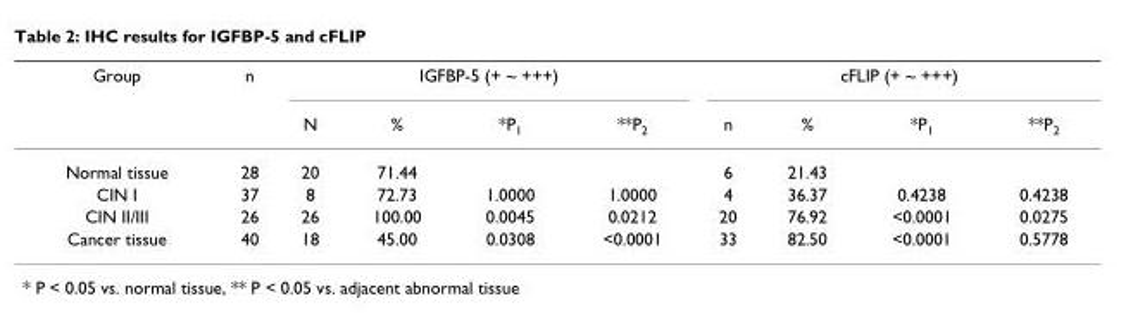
<table><thead><tr><td rowspan="2">Group</td><td rowspan="2">n</td><td colspan="4">IGFBP-5 (+ ~ +++)</td><td colspan="4">cFLIP (+ ~ +++)</td></tr><tr><td>N</td><td>%</td><td>*P<sub>1</sub></td><td>**P<sub>2</sub></td><td>n</td><td>%</td><td>*P<sub>1</sub></td><td>**P<sub>2</sub></td></tr></thead><tbody><tr><td>Normal tissue</td><td>28</td><td>20</td><td>71.44</td><td></td><td></td><td>6</td><td>21.43</td><td></td><td></td></tr><tr><td>CIN I</td><td>37</td><td>8</td><td>72.73</td><td>1.0000</td><td>1.0000</td><td>4</td><td>36.37</td><td>0.4238</td><td>0.4238</td></tr><tr><td>CIN II/III</td><td>26</td><td>26</td><td>100.00</td><td>0.0045</td><td>0.0212</td><td>20</td><td>76.92</td><td>&lt;0.0001</td><td>0.0275</td></tr><tr><td>Cancer tissue</td><td>40</td><td>18</td><td>45.00</td><td>0.0308</td><td>&lt;0.0001</td><td>33</td><td>82.50</td><td>&lt;0.0001</td><td>0.5778</td></tr></tbody></table>